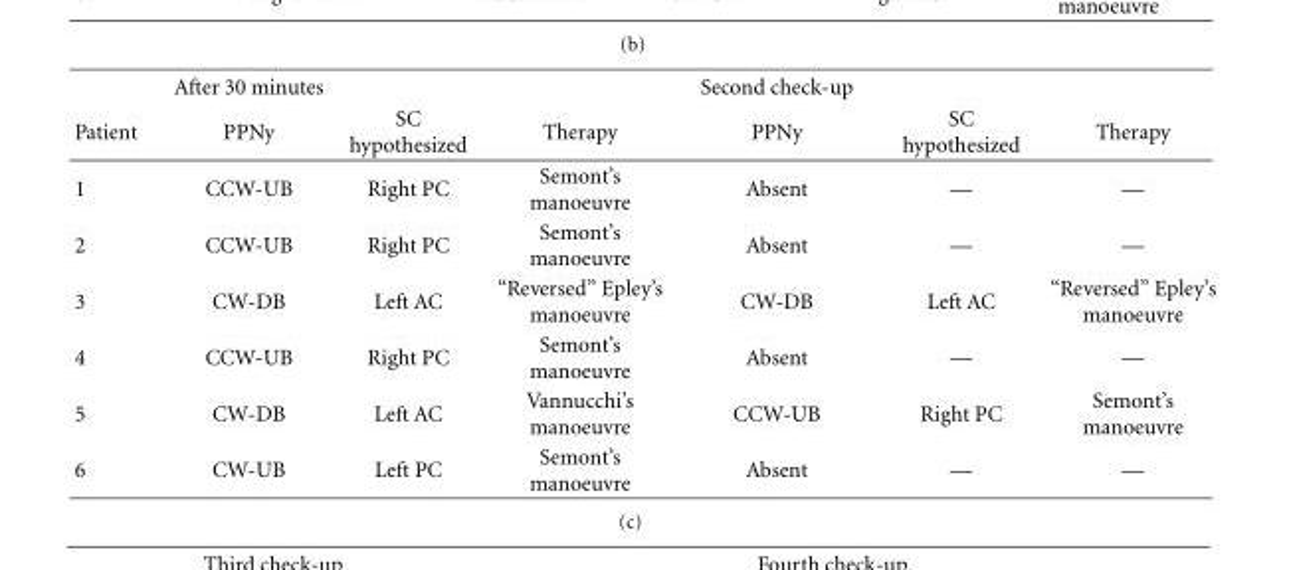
<table><thead><tr><td rowspan="2">Patient</td><td rowspan="2">After 30 minutes PPNy</td><td rowspan="2">SC hypothesized</td><td rowspan="2">Therapy</td><td rowspan="2">Second check-up PPNy</td><td rowspan="2">SC hypothesized</td><td rowspan="2">Therapy</td></tr><tr></tr></thead><tbody><tr><td>1</td><td>CCW-UB</td><td>Right PC</td><td>Semont’s manoeuvre</td><td>Absent</td><td>—</td><td>—</td></tr><tr><td>2</td><td>CCW-UB</td><td>Right PC</td><td>Semont’s manoeuvre</td><td>Absent</td><td>—</td><td>—</td></tr><tr><td>3</td><td>CW-DB</td><td>Left AC</td><td>“Reversed” Epley’s manoeuvre</td><td>CW-DB</td><td>Left AC</td><td>“Reversed” Epley’s manoeuvre</td></tr><tr><td>4</td><td>CCW-UB</td><td>Right PC</td><td>Semont’s manoeuvre</td><td>Absent</td><td>—</td><td>—</td></tr><tr><td>5</td><td>CW-DB</td><td>Left AC</td><td>Vannucchi’s manoeuvre</td><td>CCW-UB</td><td>Right PC</td><td>Semont’s manoeuvre</td></tr><tr><td>6</td><td>CW-UB</td><td>Left PC</td><td>Semont’s manoeuvre</td><td>Absent</td><td>—</td><td>—</td></tr></tbody></table>